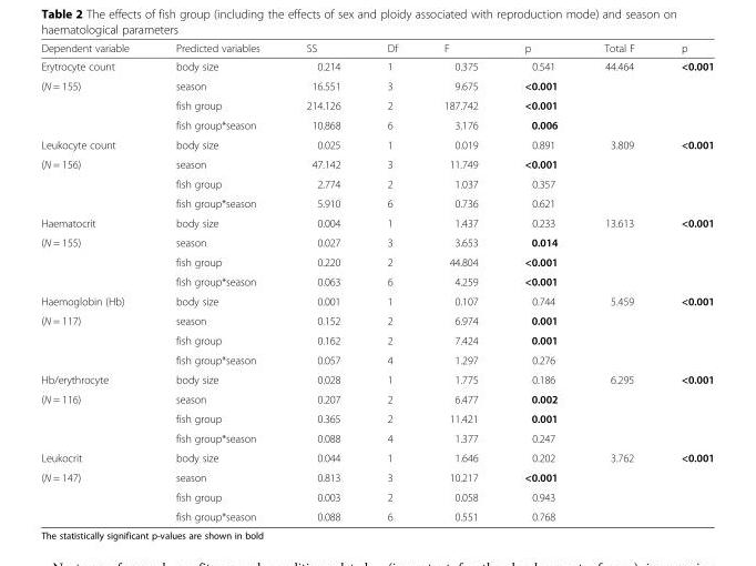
<table><thead><tr><td>Dependent variable</td><td>Predicted variables</td><td>SS</td><td>Df</td><td>F</td><td>p</td><td>Total F</td><td>p</td></tr></thead><tbody><tr><td>Erytrocyte count</td><td>body size</td><td>0.214</td><td>1</td><td>0.375</td><td>0.541</td><td>44.464</td><td>&lt;0.001</td></tr><tr><td rowspan="3">(N = 155)</td><td>season</td><td>16.551</td><td>3</td><td>9.675</td><td>&lt;0.001</td><td></td><td></td></tr><tr><td>fish group</td><td>214.126</td><td>2</td><td>187.742</td><td>&lt;0.001</td><td></td><td></td></tr><tr><td>fish group*season</td><td>10.868</td><td>6</td><td>3.176</td><td>0.006</td><td></td><td></td></tr><tr><td>Leukocyte count</td><td>body size</td><td>0.025</td><td>1</td><td>0.019</td><td>0.891</td><td>3.809</td><td>&lt;0.001</td></tr><tr><td rowspan="3">(N = 156)</td><td>season</td><td>47.142</td><td>3</td><td>11.749</td><td>&lt;0.001</td><td></td><td></td></tr><tr><td>fish group</td><td>2.774</td><td>2</td><td>1.037</td><td>0.357</td><td></td><td></td></tr><tr><td>fish group*season</td><td>5.910</td><td>6</td><td>0.736</td><td>0.621</td><td></td><td></td></tr><tr><td>Haematocrit</td><td>body size</td><td>0.004</td><td>1</td><td>1.437</td><td>0.233</td><td>13.613</td><td>&lt;0.001</td></tr><tr><td rowspan="3">(N = 155)</td><td>season</td><td>0.027</td><td>3</td><td>3.653</td><td>0.014</td><td></td><td></td></tr><tr><td>fish group</td><td>0.220</td><td>2</td><td>44.804</td><td>&lt;0.001</td><td></td><td></td></tr><tr><td>fish group*season</td><td>0.063</td><td>6</td><td>4.259</td><td>&lt;0.001</td><td></td><td></td></tr><tr><td>Haemoglobin (Hb)</td><td>body size</td><td>0.001</td><td>1</td><td>0.107</td><td>0.744</td><td>5.459</td><td>&lt;0.001</td></tr><tr><td rowspan="3">(N = 117)</td><td>season</td><td>0.152</td><td>2</td><td>6.974</td><td>0.001</td><td></td><td></td></tr><tr><td>fish group</td><td>0.162</td><td>2</td><td>7.424</td><td>0.001</td><td></td><td></td></tr><tr><td>fish group*season</td><td>0.057</td><td>4</td><td>1.297</td><td>0.276</td><td></td><td></td></tr><tr><td>Hb/erythrocyte</td><td>body size</td><td>0.028</td><td>1</td><td>1.775</td><td>0.186</td><td>6.295</td><td>&lt;0.001</td></tr><tr><td rowspan="3">(N = 116)</td><td>season</td><td>0.207</td><td>2</td><td>6.477</td><td>0.002</td><td></td><td></td></tr><tr><td>fish group</td><td>0.365</td><td>2</td><td>11.421</td><td>0.001</td><td></td><td></td></tr><tr><td>fish group*season</td><td>0.088</td><td>4</td><td>1.377</td><td>0.247</td><td></td><td></td></tr><tr><td>Leukocrit</td><td>body size</td><td>0.044</td><td>1</td><td>1.646</td><td>0.202</td><td>3.762</td><td>&lt;0.001</td></tr><tr><td rowspan="3">(N = 147)</td><td>season</td><td>0.813</td><td>3</td><td>10.217</td><td>&lt;0.001</td><td></td><td></td></tr><tr><td>fish group</td><td>0.003</td><td>2</td><td>0.058</td><td>0.943</td><td></td><td></td></tr><tr><td>fish group*season</td><td>0.088</td><td>6</td><td>0.551</td><td>0.768</td><td></td><td></td></tr></tbody></table>